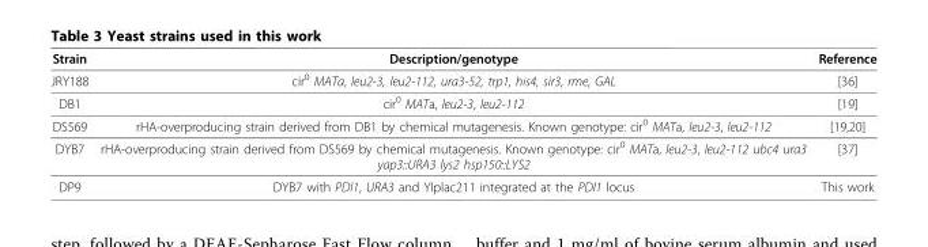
<table><thead><tr><td>Strain</td><td>Description/genotype</td><td>Reference</td></tr></thead><tbody><tr><td>JRY188</td><td>cir<sup>0</sup> MATa, leu2-3, leu2-112, ura3-52, trp1, his4, sir3, rme, GAL</td><td>[36]</td></tr><tr><td>DB1</td><td>cir<sup>0</sup> MATa, leu2-3, leu2-112</td><td>[19]</td></tr><tr><td>DS569</td><td>rHA-overproducing strain derived from DB1 by chemical mutagenesis. Known genotype: cir<sup>0</sup> MATa, leu2-3, leu2-112</td><td>[19,20]</td></tr><tr><td>DYB7</td><td>rHA-overproducing strain derived from DS569 by chemical mutagenesis. Known genotype: cir<sup>0</sup> MATa, leu2-3, leu2-112 ubc4 ura3 yap3::URA3 lys2 hsp150::LYS2</td><td>[37]</td></tr><tr><td>DP9</td><td>DYB7 with PDI1, URA3 and YIplac211 integrated at the PDI1 locus</td><td>This work</td></tr></tbody></table>